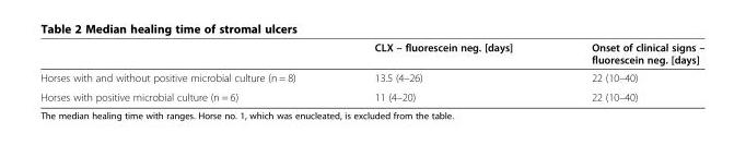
<table><thead><tr><td></td><td>CLX – fluorescein neg. [days]</td><td>Onset of clinical signs – fluorescein neg. [days]</td></tr></thead><tbody><tr><td>Horses with and without positive microbial culture (n = 8)</td><td>13.5 (4–26)</td><td>22 (10–40)</td></tr><tr><td>Horses with positive microbial culture (n = 6)</td><td>11 (4–20)</td><td>22 (10–40)</td></tr></tbody></table>